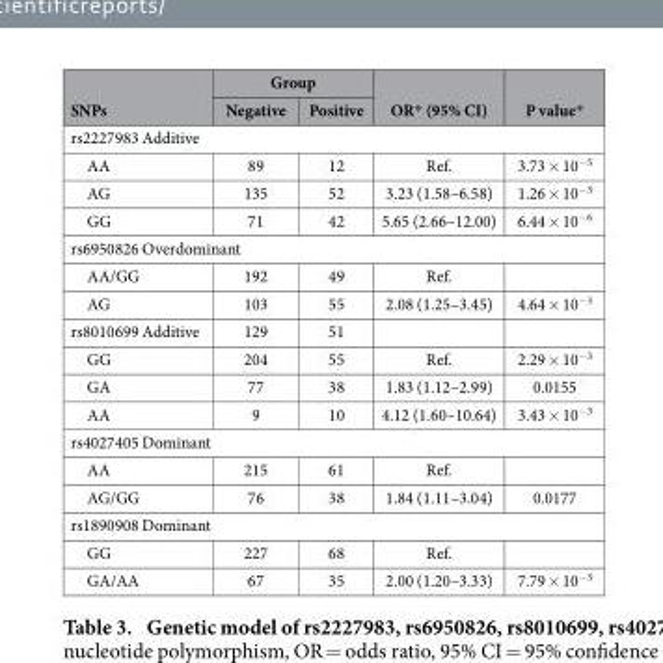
<table><thead><tr><td rowspan="2">SNPs</td><td colspan="2">Group</td><td rowspan="2">OR* (95% CI)</td><td rowspan="2">P value*</td></tr><tr><td>Negative</td><td>Positive</td></tr></thead><tbody><tr><td colspan="5">rs2227983 Additive</td></tr><tr><td>AA</td><td>89</td><td>12</td><td>Ref.</td><td>3.73 × 10<sup>−5</sup></td></tr><tr><td>AG</td><td>135</td><td>52</td><td>3.23 (1.58–6.58)</td><td>1.26 × 10<sup>−3</sup></td></tr><tr><td>GG</td><td>71</td><td>42</td><td>5.65 (2.66–12.00)</td><td>6.44 × 10<sup>−6</sup></td></tr><tr><td colspan="5">rs6950826 Overdominant</td></tr><tr><td>AA/GG</td><td>192</td><td>49</td><td>Ref.</td><td></td></tr><tr><td>AG</td><td>103</td><td>55</td><td>2.08 (1.25–3.45)</td><td>4.64 × 10<sup>−3</sup></td></tr><tr><td>rs8010699 Additive</td><td>129</td><td>51</td><td></td><td></td></tr><tr><td>GG</td><td>204</td><td>55</td><td>Ref.</td><td>2.29 × 10<sup>−3</sup></td></tr><tr><td>GA</td><td>77</td><td>38</td><td>1.83 (1.12–2.99)</td><td>0.0155</td></tr><tr><td>AA</td><td>9</td><td>10</td><td>4.12 (1.60–10.64)</td><td>3.43 × 10<sup>−3</sup></td></tr><tr><td colspan="5">rs4027405 Dominant</td></tr><tr><td>AA</td><td>215</td><td>61</td><td>Ref.</td><td></td></tr><tr><td>AG/GG</td><td>76</td><td>38</td><td>1.84 (1.11–3.04)</td><td>0.0177</td></tr><tr><td colspan="5">rs1890908 Dominant</td></tr><tr><td>GG</td><td>227</td><td>68</td><td>Ref.</td><td></td></tr><tr><td>GA/AA</td><td>67</td><td>35</td><td>2.00 (1.20–3.33)</td><td>7.79 × 10<sup>−3</sup></td></tr></tbody></table>